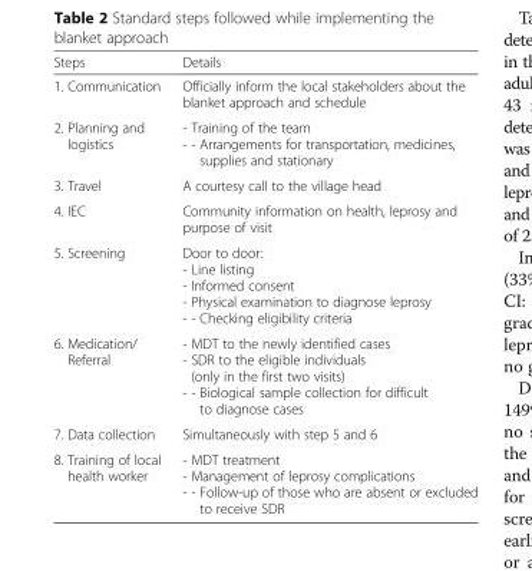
<table><thead><tr><td>Steps</td><td>Details</td></tr></thead><tbody><tr><td>1. Communication</td><td>Officially inform the local stakeholders about the blanket approach and schedule</td></tr><tr><td>2. Planning and logistics</td><td>- Training of the team - - Arrangements for transportation, medicines, supplies and stationary</td></tr><tr><td>3. Travel</td><td>A courtesy call to the village head</td></tr><tr><td>4. IEC</td><td>Community information on health, leprosy and purpose of visit</td></tr><tr><td>5. Screening</td><td>Door to door: - Line listing - Informed consent - Physical examination to diagnose leprosy - - Checking eligibility criteria</td></tr><tr><td>6. Medication/ Referral</td><td>- MDT to the newly identified cases - SDR to the eligible individuals (only in the first two visits) - - Biological sample collection for difficult to diagnose cases</td></tr><tr><td>7. Data collection</td><td>Simultaneously with step 5 and 6</td></tr><tr><td>8. Training of local health worker</td><td>- MDT treatment - Management of leprosy complications - - Follow-up of those who are absent or excluded to receive SDR</td></tr></tbody></table>